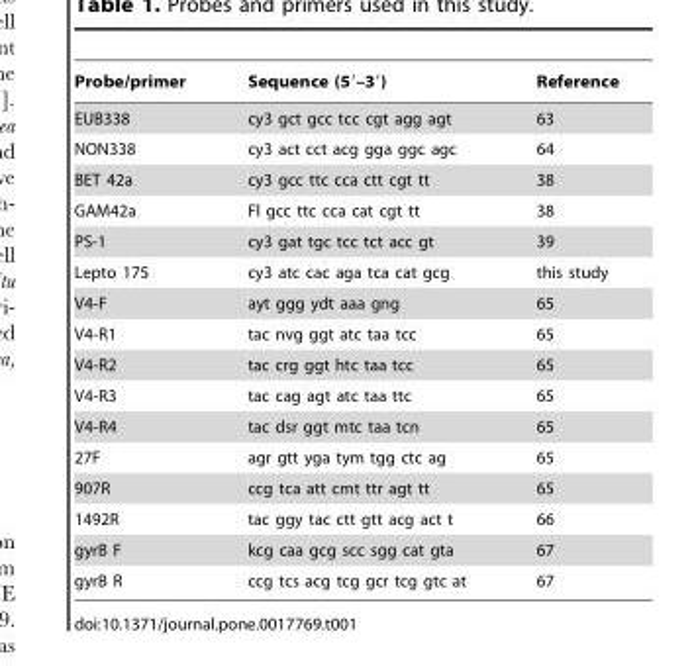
<table><thead><tr><td>Probe/primer</td><td>Sequence (5′–3′)</td><td>Reference</td></tr></thead><tbody><tr><td>EUB338</td><td>cy3 gct gcc tcc cgt agg agt</td><td>63</td></tr><tr><td>NON338</td><td>cy3 act cct acg gga ggc agc</td><td>64</td></tr><tr><td>BET 42a</td><td>cy3 gcc ttc cca ctt cgt tt</td><td>38</td></tr><tr><td>GAM42a</td><td>Fl gcc ttc cca cat cgt tt</td><td>38</td></tr><tr><td>PS-1</td><td>cy3 gat tgc tcc tct acc gt</td><td>39</td></tr><tr><td>Lepto 175</td><td>cy3 atc cac aga tca cat gcg</td><td>this study</td></tr><tr><td>V4-F</td><td>ayt ggg ydt aaa gng</td><td>65</td></tr><tr><td>V4-R1</td><td>tac nvg ggt atc taa tcc</td><td>65</td></tr><tr><td>V4-R2</td><td>tac crg ggt htc taa tcc</td><td>65</td></tr><tr><td>V4-R3</td><td>tac cag agt atc taa ttc</td><td>65</td></tr><tr><td>V4-R4</td><td>tac dsr ggt mtc taa tcn</td><td>65</td></tr><tr><td>27F</td><td>agr gtt yga tym tgg ctc ag</td><td>65</td></tr><tr><td>907R</td><td>ccg tca att cmt ttr agt tt</td><td>65</td></tr><tr><td>1492R</td><td>tac ggy tac ctt gtt acg act t</td><td>66</td></tr><tr><td>gyrB F</td><td>kcg caa gcg scc sgg cat gta</td><td>67</td></tr><tr><td>gyrB R</td><td>ccg tcs acg tcg gcr tcg gtc at</td><td>67</td></tr></tbody></table>